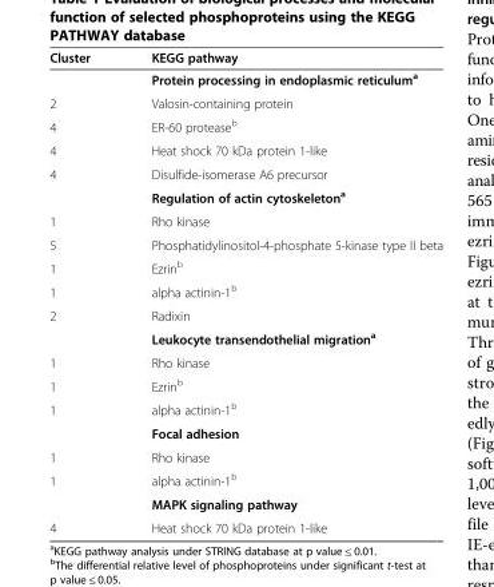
<table><thead><tr><td>Cluster</td><td>KEGG pathway</td></tr></thead><tbody><tr><td></td><td>Protein processing in endoplasmic reticulum<sup>a</sup></td></tr><tr><td>2</td><td>Valosin-containing protein</td></tr><tr><td>4</td><td>ER-60 protease<sup>b</sup></td></tr><tr><td>4</td><td>Heat shock 70 kDa protein 1-like</td></tr><tr><td rowspan="2">4</td><td>Disulfide-isomerase A6 precursor</td></tr><tr><td>Regulation of actin cytoskeleton<sup>a</sup></td></tr><tr><td>1</td><td>Rho kinase</td></tr><tr><td>5</td><td>Phosphatidylinositol-4-phosphate 5-kinase type II beta</td></tr><tr><td>1</td><td>Ezrin<sup>b</sup></td></tr><tr><td>1</td><td>alpha actinin-1<sup>b</sup></td></tr><tr><td rowspan="2">2</td><td>Radixin</td></tr><tr><td>Leukocyte transendothelial migration<sup>a</sup></td></tr><tr><td>1</td><td>Rho kinase</td></tr><tr><td>1</td><td>Ezrin<sup>b</sup></td></tr><tr><td rowspan="2">1</td><td>alpha actinin-1<sup>b</sup></td></tr><tr><td>Focal adhesion</td></tr><tr><td>1</td><td>Rho kinase</td></tr><tr><td rowspan="2">1</td><td>alpha actinin-1<sup>b</sup></td></tr><tr><td>MAPK signaling pathway</td></tr><tr><td>4</td><td>Heat shock 70 kDa protein 1-like</td></tr></tbody></table>